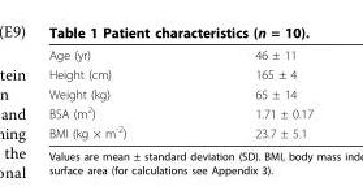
<table><tbody><tr><td>Age (yr)</td><td>46 ± 11</td></tr><tr><td>Height (cm)</td><td>165 ± 4</td></tr><tr><td>Weight (kg)</td><td>65 ± 14</td></tr><tr><td>BSA (m<sup>2</sup>)</td><td>1.71 ± 0.17</td></tr><tr><td>BMI (kg × m<sup>-2</sup>)</td><td>23.7 ± 5.1</td></tr></tbody></table>